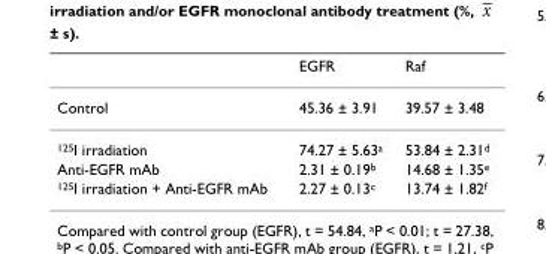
<table><thead><tr><td></td><td>EGFR</td><td>Raf</td></tr></thead><tbody><tr><td>Control</td><td>45.36 ± 3.91</td><td>39.57 ± 3.48</td></tr><tr><td><sup>125</sup>I irradiation</td><td>74.27 ± 5.63<sup>a</sup></td><td>53.84 ± 2.31<sup>d</sup></td></tr><tr><td>Anti-EGFR mAb</td><td>2.31 ± 0.19<sup>b</sup></td><td>14.68 ± 1.35<sup>e</sup></td></tr><tr><td><sup>125</sup>I irradiation + Anti-EGFR mAb</td><td>2.27 ± 0.13<sup>c</sup></td><td>13.74 ± 1.82<sup>f</sup></td></tr></tbody></table>